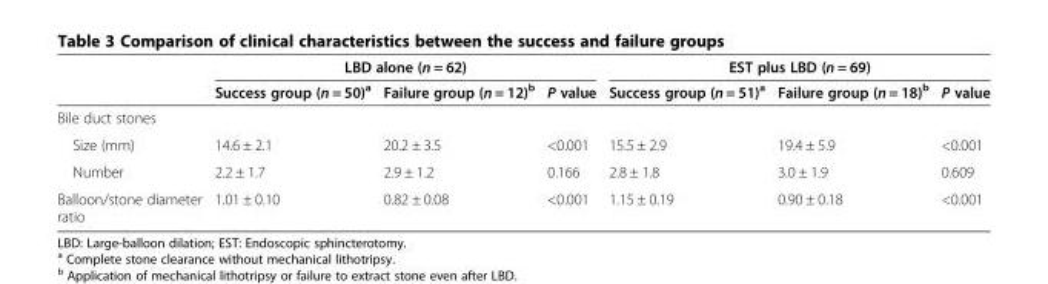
<table><thead><tr><td rowspan="2"></td><td colspan="3">LBD alone (n = 62)</td><td colspan="3">EST plus LBD (n = 69)</td></tr><tr><td>Success group (n = 50)<sup>a</sup></td><td>Failure group (n = 12)<sup>b</sup></td><td>P value</td><td>Success group (n = 51)<sup>a</sup></td><td>Failure group (n = 18)<sup>b</sup></td><td>P value</td></tr></thead><tbody><tr><td colspan="7">Bile duct stones</td></tr><tr><td>Size (mm)</td><td>14.6 ± 2.1</td><td>20.2 ± 3.5</td><td>&lt;0.001</td><td>15.5 ± 2.9</td><td>19.4 ± 5.9</td><td>&lt;0.001</td></tr><tr><td>Number</td><td>2.2 ± 1.7</td><td>2.9 ± 1.2</td><td>0.166</td><td>2.8 ± 1.8</td><td>3.0 ± 1.9</td><td>0.609</td></tr><tr><td>Balloon/stone diameter ratio</td><td>1.01 ± 0.10</td><td>0.82 ± 0.08</td><td>&lt;0.001</td><td>1.15 ± 0.19</td><td>0.90 ± 0.18</td><td>&lt;0.001</td></tr></tbody></table>